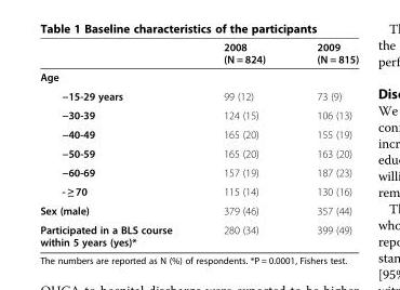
<table><thead><tr><td></td><td>2008 (N = 824)</td><td>2009 (N = 815)</td></tr></thead><tbody><tr><td colspan="3">Age</td></tr><tr><td>−15-29 years</td><td>99 (12)</td><td>73 (9)</td></tr><tr><td>−30-39</td><td>124 (15)</td><td>106 (13)</td></tr><tr><td>−40-49</td><td>165 (20)</td><td>155 (19)</td></tr><tr><td>−50-59</td><td>165 (20)</td><td>163 (20)</td></tr><tr><td>−60-69</td><td>157 (19)</td><td>187 (23)</td></tr><tr><td>- ≥ 70</td><td>115 (14)</td><td>130 (16)</td></tr><tr><td>Sex (male)</td><td>379 (46)</td><td>357 (44)</td></tr><tr><td>Participated in a BLS course within 5 years (yes)*</td><td>280 (34)</td><td>399 (49)</td></tr></tbody></table>